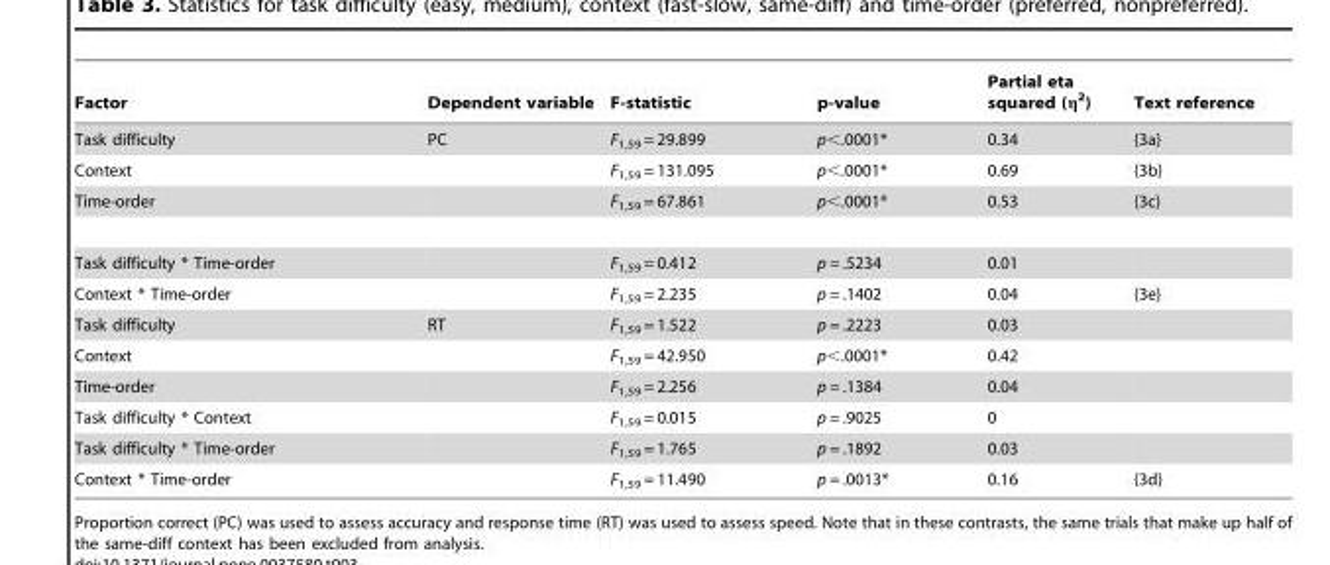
<table><thead><tr><td>Factor</td><td>Dependent variable</td><td>F-statistic</td><td>p-value</td><td>Partial eta squared (η<sup>2</sup>)</td><td>Text reference</td></tr></thead><tbody><tr><td>Task difficulty</td><td>PC</td><td>F<sub>1,59</sub> = 29.899</td><td>p&lt;.0001*</td><td>0.34</td><td>{3a}</td></tr><tr><td>Context</td><td></td><td>F<sub>1,59</sub> = 131.095</td><td>p&lt;.0001*</td><td>0.69</td><td>{3b}</td></tr><tr><td>Time-order</td><td></td><td>F<sub>1,59</sub> = 67.861</td><td>p&lt;.0001*</td><td>0.53</td><td>{3c}</td></tr><tr><td>Task difficulty * Time-order</td><td></td><td>F<sub>1,59</sub> = 0.412</td><td>p = .5234</td><td>0.01</td><td></td></tr><tr><td>Context * Time-order</td><td></td><td>F<sub>1,59</sub> = 2.235</td><td>p = .1402</td><td>0.04</td><td>{3e}</td></tr><tr><td>Task difficulty</td><td>RT</td><td>F<sub>1,59</sub> = 1.522</td><td>p = .2223</td><td>0.03</td><td></td></tr><tr><td>Context</td><td></td><td>F<sub>1,59</sub> = 42.950</td><td>p&lt;.0001*</td><td>0.42</td><td></td></tr><tr><td>Time-order</td><td></td><td>F<sub>1,59</sub> = 2.256</td><td>p = .1384</td><td>0.04</td><td></td></tr><tr><td>Task difficulty * Context</td><td></td><td>F<sub>1,59</sub> = 0.015</td><td>p = .9025</td><td>0</td><td></td></tr><tr><td>Task difficulty * Time-order</td><td></td><td>F<sub>1,59</sub> = 1.765</td><td>p = .1892</td><td>0.03</td><td></td></tr><tr><td>Context * Time-order</td><td></td><td>F<sub>1,59</sub> = 11.490</td><td>p = .0013*</td><td>0.16</td><td>{3d}</td></tr></tbody></table>